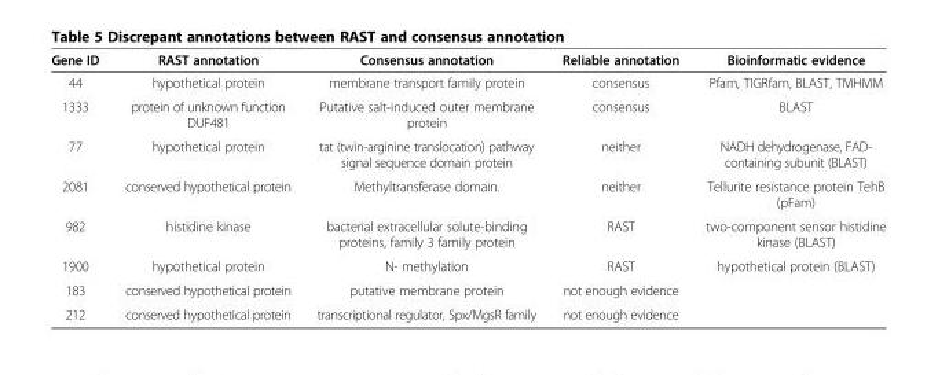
<table><thead><tr><td>Gene ID</td><td>RAST annotation</td><td>Consensus annotation</td><td>Reliable annotation</td><td>Bioinformatic evidence</td></tr></thead><tbody><tr><td>44</td><td>hypothetical protein</td><td>membrane transport family protein</td><td>consensus</td><td>Pfam, TIGRfam, BLAST, TMHMM</td></tr><tr><td>1333</td><td>protein of unknown function DUF481</td><td>Putative salt-induced outer membrane protein</td><td>consensus</td><td>BLAST</td></tr><tr><td>77</td><td>hypothetical protein</td><td>tat (twin-arginine translocation) pathway signal sequence domain protein</td><td>neither</td><td>NADH dehydrogenase, FAD- containing subunit (BLAST)</td></tr><tr><td>2081</td><td>conserved hypothetical protein</td><td>Methyltransferase domain.</td><td>neither</td><td>Tellurite resistance protein TehB (pFam)</td></tr><tr><td>982</td><td>histidine kinase</td><td>bacterial extracellular solute-binding proteins, family 3 family protein</td><td>RAST</td><td>two-component sensor histidine kinase (BLAST)</td></tr><tr><td>1900</td><td>hypothetical protein</td><td>N- methylation</td><td>RAST</td><td>hypothetical protein (BLAST)</td></tr><tr><td>183</td><td>conserved hypothetical protein</td><td>putative membrane protein</td><td>not enough evidence</td><td></td></tr><tr><td>212</td><td>conserved hypothetical protein</td><td>transcriptional regulator, Spx/MgsR family</td><td>not enough evidence</td><td></td></tr></tbody></table>